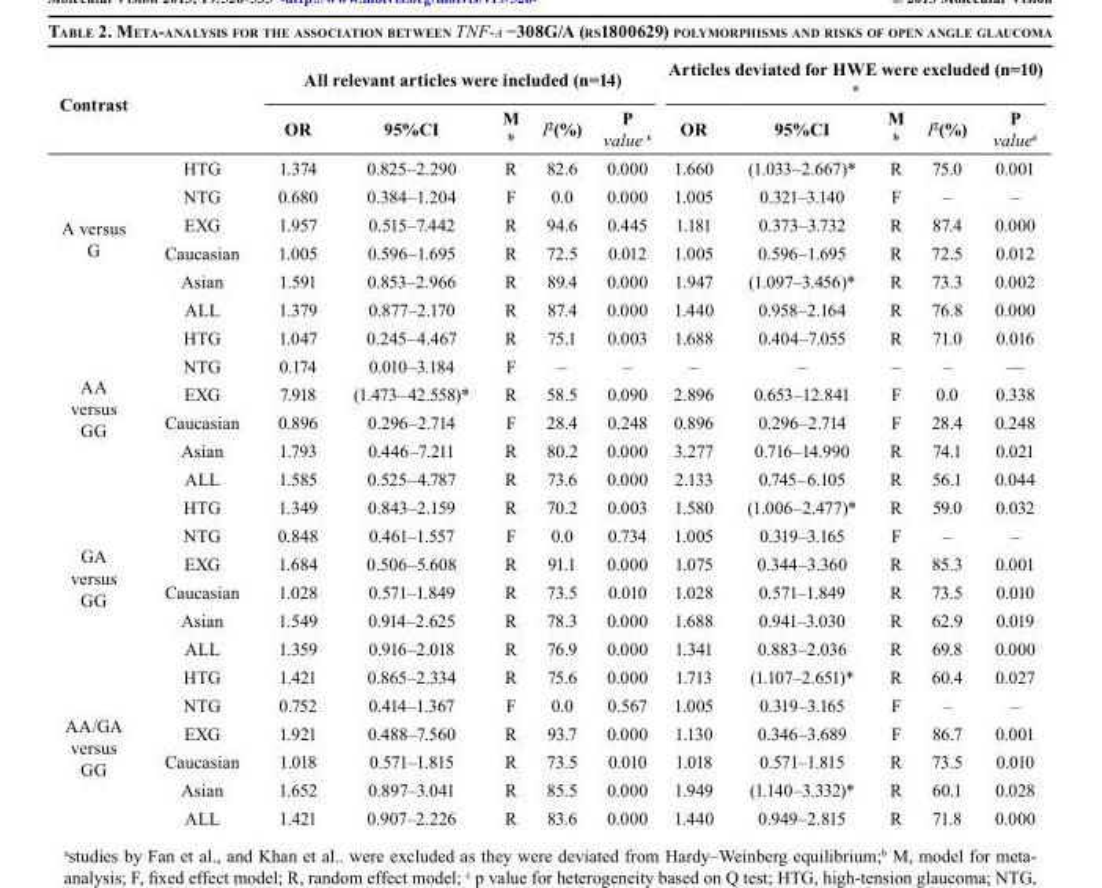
<table><thead><tr><td rowspan="2">Contrast</td><td rowspan="2"></td><td colspan="5">All relevant articles were included (n=14)</td><td colspan="5">Articles deviated for HWE were excluded (n=10) <sup>a</sup></td></tr><tr><td>OR</td><td>95%CI</td><td>M <sup>b</sup></td><td>I<sup>2</sup>(%)</td><td>P value <sup>c</sup></td><td>OR</td><td>95%CI</td><td>M <sup>b</sup></td><td>I<sup>2</sup>(%)</td><td>P value<sup>c</sup></td></tr></thead><tbody><tr><td rowspan="6">A versus G</td><td>HTG</td><td>1.374</td><td>0.825–2.290</td><td>R</td><td>82.6</td><td>0.000</td><td>1.660</td><td>(1.033–2.667)*</td><td>R</td><td>75.0</td><td>0.001</td></tr><tr><td>NTG</td><td>0.680</td><td>0.384–1.204</td><td>F</td><td>0.0</td><td>0.000</td><td>1.005</td><td>0.321–3.140</td><td>F</td><td>–</td><td>–</td></tr><tr><td>EXG</td><td>1.957</td><td>0.515–7.442</td><td>R</td><td>94.6</td><td>0.445</td><td>1.181</td><td>0.373–3.732</td><td>R</td><td>87.4</td><td>0.000</td></tr><tr><td>Caucasian</td><td>1.005</td><td>0.596–1.695</td><td>R</td><td>72.5</td><td>0.012</td><td>1.005</td><td>0.596–1.695</td><td>R</td><td>72.5</td><td>0.012</td></tr><tr><td>Asian</td><td>1.591</td><td>0.853–2.966</td><td>R</td><td>89.4</td><td>0.000</td><td>1.947</td><td>(1.097–3.456)*</td><td>R</td><td>73.3</td><td>0.002</td></tr><tr><td>ALL</td><td>1.379</td><td>0.877–2.170</td><td>R</td><td>87.4</td><td>0.000</td><td>1.440</td><td>0.958–2.164</td><td>R</td><td>76.8</td><td>0.000</td></tr><tr><td rowspan="6">AA versus GG</td><td>HTG</td><td>1.047</td><td>0.245–4.467</td><td>R</td><td>75.1</td><td>0.003</td><td>1.688</td><td>0.404–7.055</td><td>R</td><td>71.0</td><td>0.016</td></tr><tr><td>NTG</td><td>0.174</td><td>0.010–3.184</td><td>F</td><td>–</td><td>–</td><td>–</td><td>–</td><td>–</td><td>–</td><td>—</td></tr><tr><td>EXG</td><td>7.918</td><td>(1.473–42.558)*</td><td>R</td><td>58.5</td><td>0.090</td><td>2.896</td><td>0.653–12.841</td><td>F</td><td>0.0</td><td>0.338</td></tr><tr><td>Caucasian</td><td>0.896</td><td>0.296–2.714</td><td>F</td><td>28.4</td><td>0.248</td><td>0.896</td><td>0.296–2.714</td><td>F</td><td>28.4</td><td>0.248</td></tr><tr><td>Asian</td><td>1.793</td><td>0.446–7.211</td><td>R</td><td>80.2</td><td>0.000</td><td>3.277</td><td>0.716–14.990</td><td>R</td><td>74.1</td><td>0.021</td></tr><tr><td>ALL</td><td>1.585</td><td>0.525–4.787</td><td>R</td><td>73.6</td><td>0.000</td><td>2.133</td><td>0.745–6.105</td><td>R</td><td>56.1</td><td>0.044</td></tr><tr><td rowspan="6">GA versus GG</td><td>HTG</td><td>1.349</td><td>0.843–2.159</td><td>R</td><td>70.2</td><td>0.003</td><td>1.580</td><td>(1.006–2.477)*</td><td>R</td><td>59.0</td><td>0.032</td></tr><tr><td>NTG</td><td>0.848</td><td>0.461–1.557</td><td>F</td><td>0.0</td><td>0.734</td><td>1.005</td><td>0.319–3.165</td><td>F</td><td>–</td><td>–</td></tr><tr><td>EXG</td><td>1.684</td><td>0.506–5.608</td><td>R</td><td>91.1</td><td>0.000</td><td>1.075</td><td>0.344–3.360</td><td>R</td><td>85.3</td><td>0.001</td></tr><tr><td>Caucasian</td><td>1.028</td><td>0.571–1.849</td><td>R</td><td>73.5</td><td>0.010</td><td>1.028</td><td>0.571–1.849</td><td>R</td><td>73.5</td><td>0.010</td></tr><tr><td>Asian</td><td>1.549</td><td>0.914–2.625</td><td>R</td><td>78.3</td><td>0.000</td><td>1.688</td><td>0.941–3.030</td><td>R</td><td>62.9</td><td>0.019</td></tr><tr><td>ALL</td><td>1.359</td><td>0.916–2.018</td><td>R</td><td>76.9</td><td>0.000</td><td>1.341</td><td>0.883–2.036</td><td>R</td><td>69.8</td><td>0.000</td></tr><tr><td rowspan="6">AA/GA versus GG</td><td>HTG</td><td>1.421</td><td>0.865–2.334</td><td>R</td><td>75.6</td><td>0.000</td><td>1.713</td><td>(1.107–2.651)*</td><td>R</td><td>60.4</td><td>0.027</td></tr><tr><td>NTG</td><td>0.752</td><td>0.414–1.367</td><td>F</td><td>0.0</td><td>0.567</td><td>1.005</td><td>0.319–3.165</td><td>F</td><td>–</td><td>–</td></tr><tr><td>EXG</td><td>1.921</td><td>0.488–7.560</td><td>R</td><td>93.7</td><td>0.000</td><td>1.130</td><td>0.346–3.689</td><td>F</td><td>86.7</td><td>0.001</td></tr><tr><td>Caucasian</td><td>1.018</td><td>0.571–1.815</td><td>R</td><td>73.5</td><td>0.010</td><td>1.018</td><td>0.571–1.815</td><td>R</td><td>73.5</td><td>0.010</td></tr><tr><td>Asian</td><td>1.652</td><td>0.897–3.041</td><td>R</td><td>85.5</td><td>0.000</td><td>1.949</td><td>(1.140–3.332)*</td><td>R</td><td>60.1</td><td>0.028</td></tr><tr><td>ALL</td><td>1.421</td><td>0.907–2.226</td><td>R</td><td>83.6</td><td>0.000</td><td>1.440</td><td>0.949–2.815</td><td>R</td><td>71.8</td><td>0.000</td></tr></tbody></table>